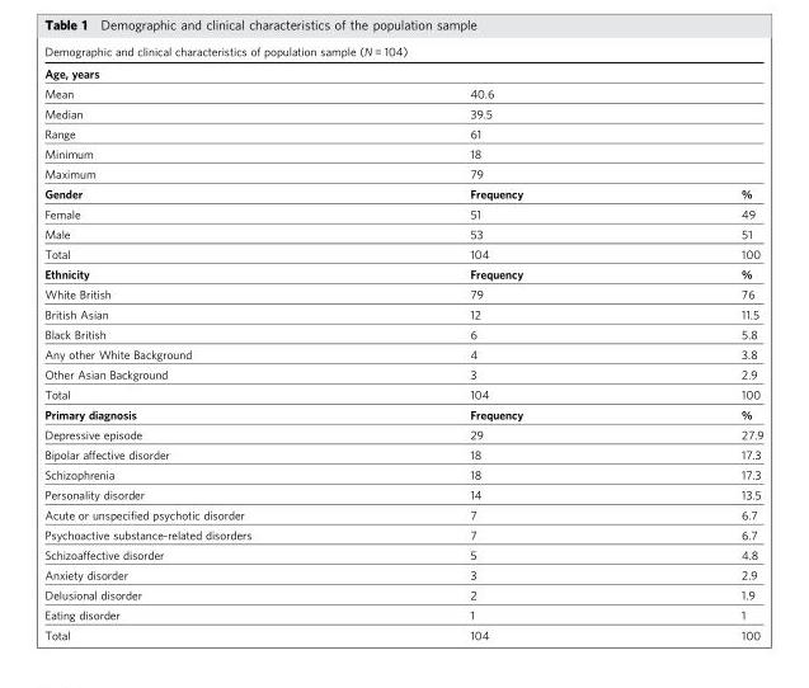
<table><thead><tr><td colspan="3">Demographic and clinical characteristics of population sample (N = 104)</td></tr><tr><td>Age, years</td><td></td><td></td></tr></thead><tbody><tr><td>Mean</td><td>40.6</td><td></td></tr><tr><td>Median</td><td>39.5</td><td></td></tr><tr><td>Range</td><td>61</td><td></td></tr><tr><td>Minimum</td><td>18</td><td></td></tr><tr><td>Maximum</td><td>79</td><td></td></tr><tr><td>Gender</td><td>Frequency</td><td>%</td></tr><tr><td>Female</td><td>51</td><td>49</td></tr><tr><td>Male</td><td>53</td><td>51</td></tr><tr><td>Total</td><td>104</td><td>100</td></tr><tr><td>Ethnicity</td><td>Frequency</td><td>%</td></tr><tr><td>White British</td><td>79</td><td>76</td></tr><tr><td>British Asian</td><td>12</td><td>11.5</td></tr><tr><td>Black British</td><td>6</td><td>5.8</td></tr><tr><td>Any other White Background</td><td>4</td><td>3.8</td></tr><tr><td>Other Asian Background</td><td>3</td><td>2.9</td></tr><tr><td>Total</td><td>104</td><td>100</td></tr><tr><td>Primary diagnosis</td><td>Frequency</td><td>%</td></tr><tr><td>Depressive episode</td><td>29</td><td>27.9</td></tr><tr><td>Bipolar affective disorder</td><td>18</td><td>17.3</td></tr><tr><td>Schizophrenia</td><td>18</td><td>17.3</td></tr><tr><td>Personality disorder</td><td>14</td><td>13.5</td></tr><tr><td>Acute or unspecified psychotic disorder</td><td>7</td><td>6.7</td></tr><tr><td>Psychoactive substance-related disorders</td><td>7</td><td>6.7</td></tr><tr><td>Schizoaffective disorder</td><td>5</td><td>4.8</td></tr><tr><td>Anxiety disorder</td><td>3</td><td>2.9</td></tr><tr><td>Delusional disorder</td><td>2</td><td>1.9</td></tr><tr><td>Eating disorder</td><td>1</td><td>1</td></tr><tr><td>Total</td><td>104</td><td>100</td></tr></tbody></table>